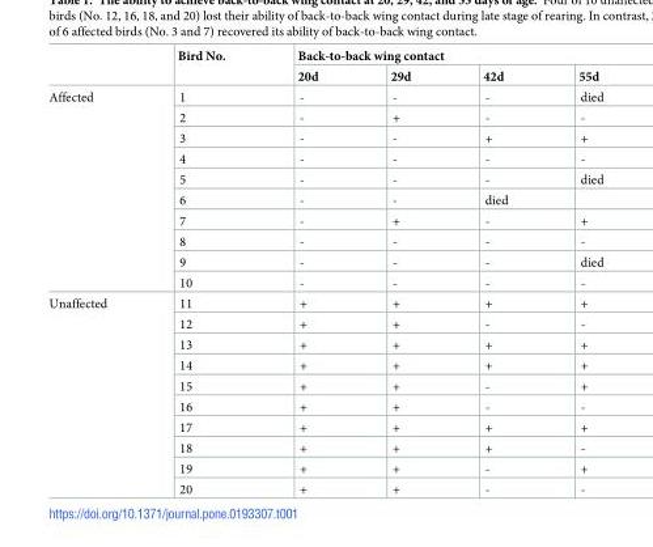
<table><thead><tr><td rowspan="2"></td><td rowspan="2">Bird No.</td><td colspan="4">Back-to-back wing contact</td></tr><tr><td>20d</td><td>29d</td><td>42d</td><td>55d</td></tr></thead><tbody><tr><td rowspan="10">Affected</td><td>1</td><td>-</td><td>-</td><td>-</td><td>died</td></tr><tr><td>2</td><td>-</td><td>+</td><td>-</td><td>-</td></tr><tr><td>3</td><td>-</td><td>-</td><td>+</td><td>+</td></tr><tr><td>4</td><td>-</td><td>-</td><td>-</td><td>-</td></tr><tr><td>5</td><td>-</td><td>-</td><td>-</td><td>died</td></tr><tr><td>6</td><td>-</td><td>-</td><td>died</td><td></td></tr><tr><td>7</td><td>-</td><td>+</td><td>-</td><td>+</td></tr><tr><td>8</td><td>-</td><td>-</td><td>-</td><td>-</td></tr><tr><td>9</td><td>-</td><td>-</td><td>-</td><td>died</td></tr><tr><td>10</td><td>-</td><td>-</td><td>-</td><td>-</td></tr><tr><td rowspan="10">Unaffected</td><td>11</td><td>+</td><td>+</td><td>+</td><td>+</td></tr><tr><td>12</td><td>+</td><td>+</td><td>-</td><td>-</td></tr><tr><td>13</td><td>+</td><td>+</td><td>+</td><td>+</td></tr><tr><td>14</td><td>+</td><td>+</td><td>+</td><td>+</td></tr><tr><td>15</td><td>+</td><td>+</td><td>-</td><td>+</td></tr><tr><td>16</td><td>+</td><td>+</td><td>-</td><td>-</td></tr><tr><td>17</td><td>+</td><td>+</td><td>+</td><td>+</td></tr><tr><td>18</td><td>+</td><td>+</td><td>+</td><td>-</td></tr><tr><td>19</td><td>+</td><td>+</td><td>-</td><td>+</td></tr><tr><td>20</td><td>+</td><td>+</td><td>-</td><td>-</td></tr></tbody></table>